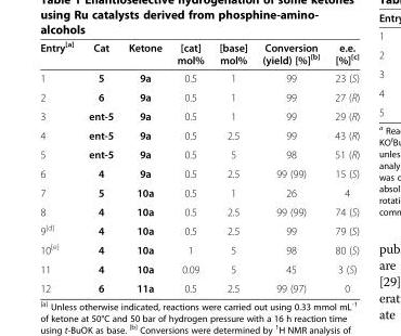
<table><thead><tr><td>Entry<sup>[a]</sup></td><td>Cat</td><td>Ketone</td><td>[cat] mol%</td><td>[base] mol%</td><td>Conversion (yield) [%]<sup>[b]</sup></td><td>e.e. [%]<sup>[c]</sup></td></tr></thead><tbody><tr><td>1</td><td>5</td><td>9a</td><td>0.5</td><td>1</td><td>99</td><td>23 (S)</td></tr><tr><td>2</td><td>6</td><td>9a</td><td>0.5</td><td>1</td><td>99</td><td>27 (R)</td></tr><tr><td>3</td><td>ent-5</td><td>9a</td><td>0.5</td><td>1</td><td>99</td><td>29 (R)</td></tr><tr><td>4</td><td>ent-5</td><td>9a</td><td>0.5</td><td>2.5</td><td>99</td><td>43 (R)</td></tr><tr><td>5</td><td>ent-5</td><td>9a</td><td>0.5</td><td>5</td><td>98</td><td>51 (R)</td></tr><tr><td>6</td><td>4</td><td>9a</td><td>0.5</td><td>2.5</td><td>99 (99)</td><td>15 (S)</td></tr><tr><td>7</td><td>5</td><td>10a</td><td>0.5</td><td>1</td><td>26</td><td>4</td></tr><tr><td>8</td><td>4</td><td>10a</td><td>0.5</td><td>2.5</td><td>99 (99)</td><td>74 (S)</td></tr><tr><td>9<sup>[d]</sup></td><td>4</td><td>10a</td><td>0.5</td><td>2.5</td><td>99</td><td>79 (S)</td></tr><tr><td>10<sup>[e]</sup></td><td>4</td><td>10a</td><td>1</td><td>5</td><td>98</td><td>80 (S)</td></tr><tr><td>11</td><td>4</td><td>10a</td><td>0.09</td><td>5</td><td>45</td><td>3 (S)</td></tr><tr><td>12</td><td>6</td><td>11a</td><td>0.5</td><td>2.5</td><td>99 (97)</td><td>0</td></tr></tbody></table>